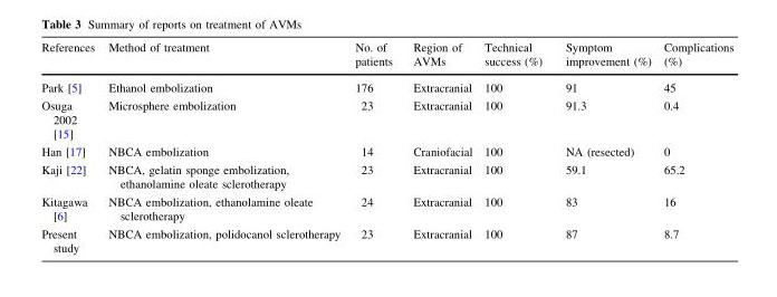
<table><thead><tr><td>References</td><td>Method of treatment</td><td>No. of patients</td><td>Region of AVMs</td><td>Technical success (%)</td><td>Symptom improvement (%)</td><td>Complications (%)</td></tr></thead><tbody><tr><td>Park [5]</td><td>Ethanol embolization</td><td>176</td><td>Extracranial</td><td>100</td><td>91</td><td>45</td></tr><tr><td>Osuga 2002 [15]</td><td>Microsphere embolization</td><td>23</td><td>Extracranial</td><td>100</td><td>91.3</td><td>0.4</td></tr><tr><td>Han [17]</td><td>NBCA embolization</td><td>14</td><td>Craniofacial</td><td>100</td><td>NA (resected)</td><td>0</td></tr><tr><td>Kaji [22]</td><td>NBCA, gelatin sponge embolization, ethanolamine oleate sclerotherapy</td><td>23</td><td>Extracranial</td><td>100</td><td>59.1</td><td>65.2</td></tr><tr><td>Kitagawa [6]</td><td>NBCA embolization, ethanolamine oleate sclerotherapy</td><td>24</td><td>Extracranial</td><td>100</td><td>83</td><td>16</td></tr><tr><td>Present study</td><td>NBCA embolization, polidocanol sclerotherapy</td><td>23</td><td>Extracranial</td><td>100</td><td>87</td><td>8.7</td></tr></tbody></table>